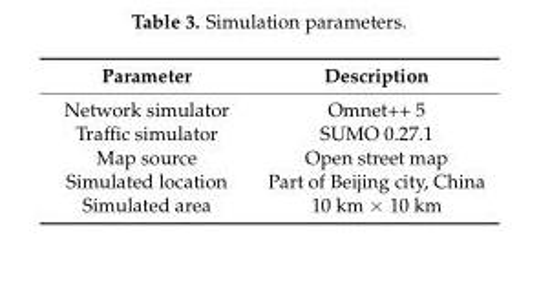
<table><thead><tr><td>Parameter</td><td>Description</td></tr></thead><tbody><tr><td>Network simulator</td><td>Omnet++ 5</td></tr><tr><td>Traffic simulator</td><td>SUMO 0.27.1</td></tr><tr><td>Map source</td><td>Open street map</td></tr><tr><td>Simulated location</td><td>Part of Beijing city, China</td></tr><tr><td>Simulated area</td><td>10 km × 10 km</td></tr></tbody></table>